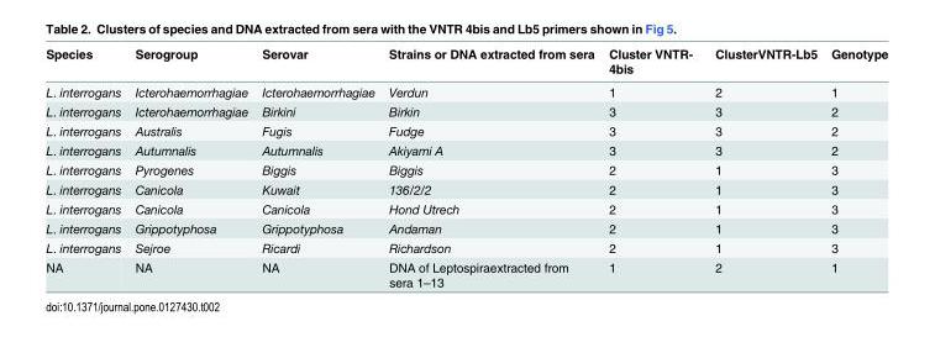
<table><thead><tr><td>Species</td><td>Serogroup</td><td>Serovar</td><td>Strains or DNA extracted from sera</td><td>Cluster VNTR- 4bis</td><td>ClusterVNTR-Lb5</td><td>Genotype</td></tr></thead><tbody><tr><td>L. interrogans</td><td>Icterohaemorrhagiae</td><td>Icterohaemorrhagiae</td><td>Verdun</td><td>1</td><td>2</td><td>1</td></tr><tr><td>L. interrogans</td><td>Icterohaemorrhagiae</td><td>Birkini</td><td>Birkin</td><td>3</td><td>3</td><td>2</td></tr><tr><td>L. interrogans</td><td>Australis</td><td>Fugis</td><td>Fudge</td><td>3</td><td>3</td><td>2</td></tr><tr><td>L. interrogans</td><td>Autumnalis</td><td>Autumnalis</td><td>Akiyami A</td><td>3</td><td>3</td><td>2</td></tr><tr><td>L. interrogans</td><td>Pyrogenes</td><td>Biggis</td><td>Biggis</td><td>2</td><td>1</td><td>3</td></tr><tr><td>L. interrogans</td><td>Canicola</td><td>Kuwait</td><td>136/2/2</td><td>2</td><td>1</td><td>3</td></tr><tr><td>L. interrogans</td><td>Canicola</td><td>Canicola</td><td>Hond Utrech</td><td>2</td><td>1</td><td>3</td></tr><tr><td>L. interrogans</td><td>Grippotyphosa</td><td>Grippotyphosa</td><td>Andaman</td><td>2</td><td>1</td><td>3</td></tr><tr><td>L. interrogans</td><td>Sejroe</td><td>Ricardi</td><td>Richardson</td><td>2</td><td>1</td><td>3</td></tr><tr><td>NA</td><td>NA</td><td>NA</td><td>DNA of Leptospiraextracted from sera 1–13</td><td>1</td><td>2</td><td>1</td></tr></tbody></table>